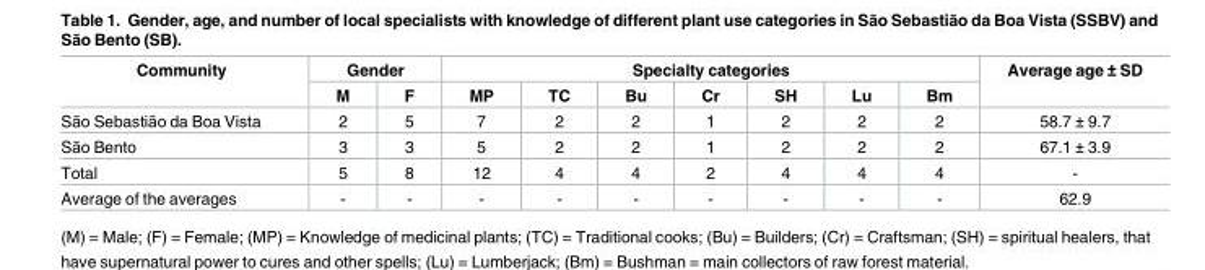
<table><thead><tr><td rowspan="2">Community</td><td colspan="2">Gender</td><td colspan="7">Specialty categories</td><td rowspan="2">Average age ± SD</td></tr><tr><td>M</td><td>F</td><td>MP</td><td>TC</td><td>Bu</td><td>Cr</td><td>SH</td><td>Lu</td><td>Bm</td></tr></thead><tbody><tr><td>São Sebastião da Boa Vista</td><td>2</td><td>5</td><td>7</td><td>2</td><td>2</td><td>1</td><td>2</td><td>2</td><td>2</td><td>58.7 ± 9.7</td></tr><tr><td>São Bento</td><td>3</td><td>3</td><td>5</td><td>2</td><td>2</td><td>1</td><td>2</td><td>2</td><td>2</td><td>67.1 ± 3.9</td></tr><tr><td>Total</td><td>5</td><td>8</td><td>12</td><td>4</td><td>4</td><td>2</td><td>4</td><td>4</td><td>4</td><td>-</td></tr><tr><td>Average of the averages</td><td>-</td><td>-</td><td>-</td><td>-</td><td>-</td><td>-</td><td>-</td><td>-</td><td>-</td><td>62.9</td></tr></tbody></table>